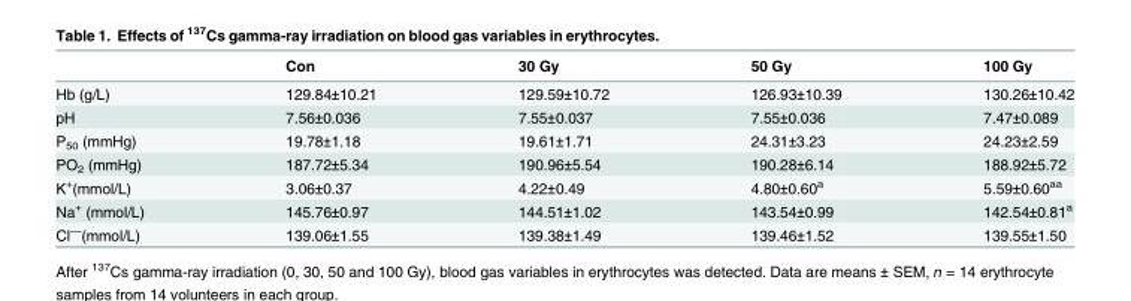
<table><thead><tr><td></td><td>Con</td><td>30 Gy</td><td>50 Gy</td><td>100 Gy</td></tr></thead><tbody><tr><td>Hb (g/L)</td><td>129.84±10.21</td><td>129.59±10.72</td><td>126.93±10.39</td><td>130.26±10.42</td></tr><tr><td>pH</td><td>7.56±0.036</td><td>7.55±0.037</td><td>7.55±0.036</td><td>7.47±0.089</td></tr><tr><td>P<sub>50</sub> (mmHg)</td><td>19.78±1.18</td><td>19.61±1.71</td><td>24.31±3.23</td><td>24.23±2.59</td></tr><tr><td>PO<sub>2</sub> (mmHg)</td><td>187.72±5.34</td><td>190.96±5.54</td><td>190.28±6.14</td><td>188.92±5.72</td></tr><tr><td>K<sup>+</sup>(mmol/L)</td><td>3.06±0.37</td><td>4.22±0.49</td><td>4.80±0.60<sup>a</sup></td><td>5.59±0.60<sup>aa</sup></td></tr><tr><td>Na<sup>+</sup> (mmol/L)</td><td>145.76±0.97</td><td>144.51±1.02</td><td>143.54±0.99</td><td>142.54±0.81<sup>a</sup></td></tr><tr><td>Cl<sup>—</sup>(mmol/L)</td><td>139.06±1.55</td><td>139.38±1.49</td><td>139.46±1.52</td><td>139.55±1.50</td></tr></tbody></table>